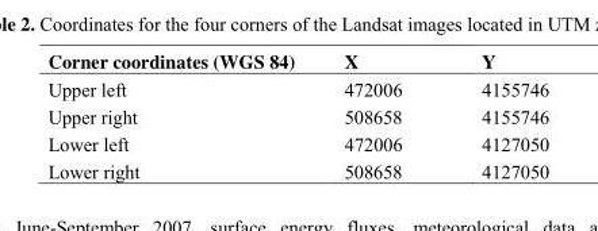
<table><thead><tr><td>Corner coordinates (WGS 84)</td><td>X</td><td>Y</td></tr></thead><tbody><tr><td>Upper left</td><td>472006</td><td>4155746</td></tr><tr><td>Upper right</td><td>508658</td><td>4155746</td></tr><tr><td>Lower left</td><td>472006</td><td>4127050</td></tr><tr><td>Lower right</td><td>508658</td><td>4127050</td></tr></tbody></table>